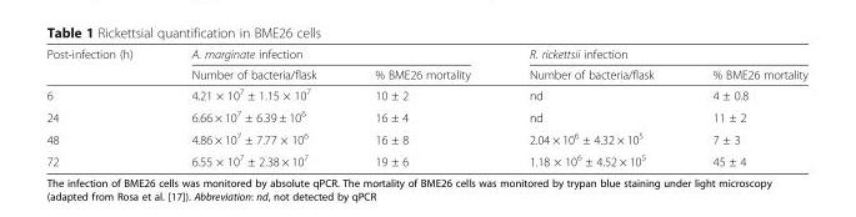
<table><thead><tr><td rowspan="2">Post-infection (h)</td><td colspan="2">A. marginate infection</td><td colspan="2">R. rickettsii infection</td></tr><tr><td>Number of bacteria/flask</td><td>% BME26 mortality</td><td>Number of bacteria/flask</td><td>% BME26 mortality</td></tr></thead><tbody><tr><td>6</td><td>4.21 × 10<sup>7</sup> ± 1.15 × 10<sup>7</sup></td><td>10 ± 2</td><td>nd</td><td>4 ± 0.8</td></tr><tr><td>24</td><td>6.66 × 10<sup>7</sup> ± 6.39 ± 10<sup>6</sup></td><td>16 ± 4</td><td>nd</td><td>11 ± 2</td></tr><tr><td>48</td><td>4.86 × 10<sup>7</sup> ± 7.77 × 10<sup>6</sup></td><td>16 ± 8</td><td>2.04 × 10<sup>6</sup> ± 4.32 × 10<sup>5</sup></td><td>7 ± 3</td></tr><tr><td>72</td><td>6.55 × 10<sup>7</sup> ± 2.38 × 10<sup>7</sup></td><td>19 ± 6</td><td>1.18 × 10<sup>6</sup> ± 4.52 × 10<sup>5</sup></td><td>45 ± 4</td></tr></tbody></table>